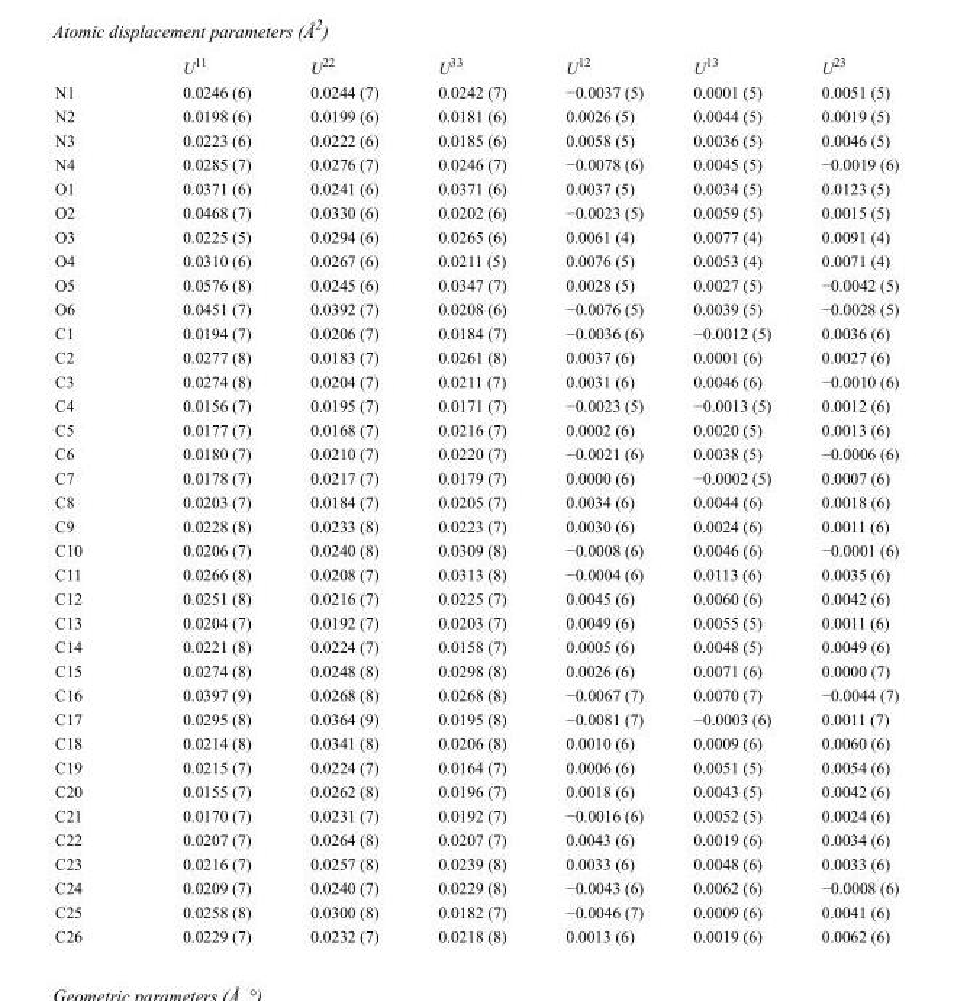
<table><thead><tr><td></td><td>U<sup>11</sup></td><td>U<sup>22</sup></td><td>U<sup>33</sup></td><td>U<sup>12</sup></td><td>U<sup>13</sup></td><td>U<sup>23</sup></td></tr></thead><tbody><tr><td>N1</td><td>0.0246 (6)</td><td>0.0244 (7)</td><td>0.0242 (7)</td><td>−0.0037 (5)</td><td>0.0001 (5)</td><td>0.0051 (5)</td></tr><tr><td>N2</td><td>0.0198 (6)</td><td>0.0199 (6)</td><td>0.0181 (6)</td><td>0.0026 (5)</td><td>0.0044 (5)</td><td>0.0019 (5)</td></tr><tr><td>N3</td><td>0.0223 (6)</td><td>0.0222 (6)</td><td>0.0185 (6)</td><td>0.0058 (5)</td><td>0.0036 (5)</td><td>0.0046 (5)</td></tr><tr><td>N4</td><td>0.0285 (7)</td><td>0.0276 (7)</td><td>0.0246 (7)</td><td>−0.0078 (6)</td><td>0.0045 (5)</td><td>−0.0019 (6)</td></tr><tr><td>O1</td><td>0.0371 (6)</td><td>0.0241 (6)</td><td>0.0371 (6)</td><td>0.0037 (5)</td><td>0.0034 (5)</td><td>0.0123 (5)</td></tr><tr><td>O2</td><td>0.0468 (7)</td><td>0.0330 (6)</td><td>0.0202 (6)</td><td>−0.0023 (5)</td><td>0.0059 (5)</td><td>0.0015 (5)</td></tr><tr><td>O3</td><td>0.0225 (5)</td><td>0.0294 (6)</td><td>0.0265 (6)</td><td>0.0061 (4)</td><td>0.0077 (4)</td><td>0.0091 (4)</td></tr><tr><td>O4</td><td>0.0310 (6)</td><td>0.0267 (6)</td><td>0.0211 (5)</td><td>0.0076 (5)</td><td>0.0053 (4)</td><td>0.0071 (4)</td></tr><tr><td>O5</td><td>0.0576 (8)</td><td>0.0245 (6)</td><td>0.0347 (7)</td><td>0.0028 (5)</td><td>0.0027 (5)</td><td>−0.0042 (5)</td></tr><tr><td>O6</td><td>0.0451 (7)</td><td>0.0392 (7)</td><td>0.0208 (6)</td><td>−0.0076 (5)</td><td>0.0039 (5)</td><td>−0.0028 (5)</td></tr><tr><td>C1</td><td>0.0194 (7)</td><td>0.0206 (7)</td><td>0.0184 (7)</td><td>−0.0036 (6)</td><td>−0.0012 (5)</td><td>0.0036 (6)</td></tr><tr><td>C2</td><td>0.0277 (8)</td><td>0.0183 (7)</td><td>0.0261 (8)</td><td>0.0037 (6)</td><td>0.0001 (6)</td><td>0.0027 (6)</td></tr><tr><td>C3</td><td>0.0274 (8)</td><td>0.0204 (7)</td><td>0.0211 (7)</td><td>0.0031 (6)</td><td>0.0046 (6)</td><td>−0.0010 (6)</td></tr><tr><td>C4</td><td>0.0156 (7)</td><td>0.0195 (7)</td><td>0.0171 (7)</td><td>−0.0023 (5)</td><td>−0.0013 (5)</td><td>0.0012 (6)</td></tr><tr><td>C5</td><td>0.0177 (7)</td><td>0.0168 (7)</td><td>0.0216 (7)</td><td>0.0002 (6)</td><td>0.0020 (5)</td><td>0.0013 (6)</td></tr><tr><td>C6</td><td>0.0180 (7)</td><td>0.0210 (7)</td><td>0.0220 (7)</td><td>−0.0021 (6)</td><td>0.0038 (5)</td><td>−0.0006 (6)</td></tr><tr><td>C7</td><td>0.0178 (7)</td><td>0.0217 (7)</td><td>0.0179 (7)</td><td>0.0000 (6)</td><td>−0.0002 (5)</td><td>0.0007 (6)</td></tr><tr><td>C8</td><td>0.0203 (7)</td><td>0.0184 (7)</td><td>0.0205 (7)</td><td>0.0034 (6)</td><td>0.0044 (6)</td><td>0.0018 (6)</td></tr><tr><td>C9</td><td>0.0228 (8)</td><td>0.0233 (8)</td><td>0.0223 (7)</td><td>0.0030 (6)</td><td>0.0024 (6)</td><td>0.0011 (6)</td></tr><tr><td>C10</td><td>0.0206 (7)</td><td>0.0240 (8)</td><td>0.0309 (8)</td><td>−0.0008 (6)</td><td>0.0046 (6)</td><td>−0.0001 (6)</td></tr><tr><td>C11</td><td>0.0266 (8)</td><td>0.0208 (7)</td><td>0.0313 (8)</td><td>−0.0004 (6)</td><td>0.0113 (6)</td><td>0.0035 (6)</td></tr><tr><td>C12</td><td>0.0251 (8)</td><td>0.0216 (7)</td><td>0.0225 (7)</td><td>0.0045 (6)</td><td>0.0060 (6)</td><td>0.0042 (6)</td></tr><tr><td>C13</td><td>0.0204 (7)</td><td>0.0192 (7)</td><td>0.0203 (7)</td><td>0.0049 (6)</td><td>0.0055 (5)</td><td>0.0011 (6)</td></tr><tr><td>C14</td><td>0.0221 (8)</td><td>0.0224 (7)</td><td>0.0158 (7)</td><td>0.0005 (6)</td><td>0.0048 (5)</td><td>0.0049 (6)</td></tr><tr><td>C15</td><td>0.0274 (8)</td><td>0.0248 (8)</td><td>0.0298 (8)</td><td>0.0026 (6)</td><td>0.0071 (6)</td><td>0.0000 (7)</td></tr><tr><td>C16</td><td>0.0397 (9)</td><td>0.0268 (8)</td><td>0.0268 (8)</td><td>−0.0067 (7)</td><td>0.0070 (7)</td><td>−0.0044 (7)</td></tr><tr><td>C17</td><td>0.0295 (8)</td><td>0.0364 (9)</td><td>0.0195 (8)</td><td>−0.0081 (7)</td><td>−0.0003 (6)</td><td>0.0011 (7)</td></tr><tr><td>C18</td><td>0.0214 (8)</td><td>0.0341 (8)</td><td>0.0206 (8)</td><td>0.0010 (6)</td><td>0.0009 (6)</td><td>0.0060 (6)</td></tr><tr><td>C19</td><td>0.0215 (7)</td><td>0.0224 (7)</td><td>0.0164 (7)</td><td>0.0006 (6)</td><td>0.0051 (5)</td><td>0.0054 (6)</td></tr><tr><td>C20</td><td>0.0155 (7)</td><td>0.0262 (8)</td><td>0.0196 (7)</td><td>0.0018 (6)</td><td>0.0043 (5)</td><td>0.0042 (6)</td></tr><tr><td>C21</td><td>0.0170 (7)</td><td>0.0231 (7)</td><td>0.0192 (7)</td><td>−0.0016 (6)</td><td>0.0052 (5)</td><td>0.0024 (6)</td></tr><tr><td>C22</td><td>0.0207 (7)</td><td>0.0264 (8)</td><td>0.0207 (7)</td><td>0.0043 (6)</td><td>0.0019 (6)</td><td>0.0034 (6)</td></tr><tr><td>C23</td><td>0.0216 (7)</td><td>0.0257 (8)</td><td>0.0239 (8)</td><td>0.0033 (6)</td><td>0.0048 (6)</td><td>0.0033 (6)</td></tr><tr><td>C24</td><td>0.0209 (7)</td><td>0.0240 (7)</td><td>0.0229 (8)</td><td>−0.0043 (6)</td><td>0.0062 (6)</td><td>−0.0008 (6)</td></tr><tr><td>C25</td><td>0.0258 (8)</td><td>0.0300 (8)</td><td>0.0182 (7)</td><td>−0.0046 (7)</td><td>0.0009 (6)</td><td>0.0041 (6)</td></tr><tr><td>C26</td><td>0.0229 (7)</td><td>0.0232 (7)</td><td>0.0218 (8)</td><td>0.0013 (6)</td><td>0.0019 (6)</td><td>0.0062 (6)</td></tr></tbody></table>